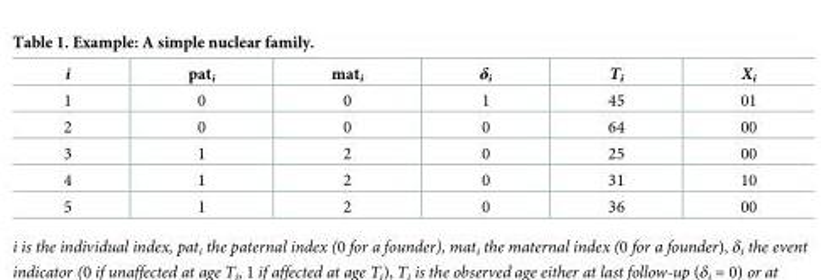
<table><thead><tr><td>i</td><td>pat<sub>i</sub></td><td>mat<sub>i</sub></td><td>δ<sub>i</sub></td><td>T<sub>i</sub></td><td>X<sub>i</sub></td></tr></thead><tbody><tr><td>1</td><td>0</td><td>0</td><td>1</td><td>45</td><td>01</td></tr><tr><td>2</td><td>0</td><td>0</td><td>0</td><td>64</td><td>00</td></tr><tr><td>3</td><td>1</td><td>2</td><td>0</td><td>25</td><td>00</td></tr><tr><td>4</td><td>1</td><td>2</td><td>0</td><td>31</td><td>10</td></tr><tr><td>5</td><td>1</td><td>2</td><td>0</td><td>36</td><td>00</td></tr></tbody></table>